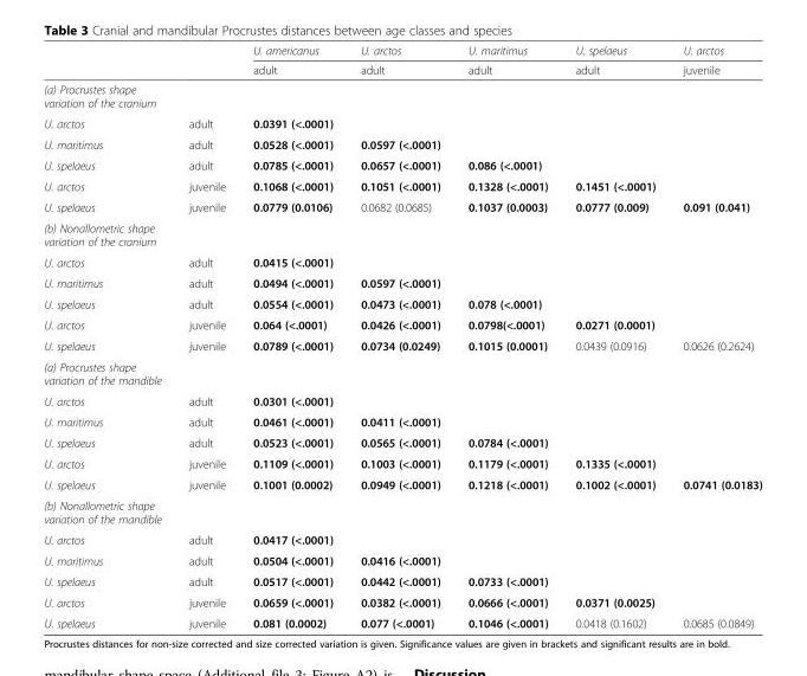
<table><thead><tr><td rowspan="2"></td><td rowspan="2"></td><td rowspan="2">U. americanus adult</td><td rowspan="2">U. arctos adult</td><td rowspan="2">U. maritimus adult</td><td rowspan="2">U. spelaeus adult</td><td rowspan="2">U. arctos juvenile</td></tr><tr></tr></thead><tbody><tr><td colspan="7">(a) Procrustes shape variation of the cranium</td></tr><tr><td>U. arctos</td><td>adult</td><td>0.0391 (&lt;.0001)</td><td></td><td></td><td></td><td></td></tr><tr><td>U. maritimus</td><td>adult</td><td>0.0528 (&lt;.0001)</td><td>0.0597 (&lt;.0001)</td><td></td><td></td><td></td></tr><tr><td>U. spelaeus</td><td>adult</td><td>0.0785 (&lt;.0001)</td><td>0.0657 (&lt;.0001)</td><td>0.086 (&lt;.0001)</td><td></td><td></td></tr><tr><td>U. arctos</td><td>juvenile</td><td>0.1068 (&lt;.0001)</td><td>0.1051 (&lt;.0001)</td><td>0.1328 (&lt;.0001)</td><td>0.1451 (&lt;.0001)</td><td></td></tr><tr><td>U. spelaeus</td><td>juvenile</td><td>0.0779 (0.0106)</td><td>0.0682 (0.0685)</td><td>0.1037 (0.0003)</td><td>0.0777 (0.009)</td><td>0.091 (0.041)</td></tr><tr><td colspan="7">(b) Nonallometric shape variation of the cranium</td></tr><tr><td>U. arctos</td><td>adult</td><td>0.0415 (&lt;.0001)</td><td></td><td></td><td></td><td></td></tr><tr><td>U. maritimus</td><td>adult</td><td>0.0494 (&lt;.0001)</td><td>0.0597 (&lt;.0001)</td><td></td><td></td><td></td></tr><tr><td>U. spelaeus</td><td>adult</td><td>0.0554 (&lt;.0001)</td><td>0.0473 (&lt;.0001)</td><td>0.078 (&lt;.0001)</td><td></td><td></td></tr><tr><td>U. arctos</td><td>juvenile</td><td>0.064 (&lt;.0001)</td><td>0.0426 (&lt;.0001)</td><td>0.0798(&lt;.0001)</td><td>0.0271 (0.0001)</td><td></td></tr><tr><td>U. spelaeus</td><td>juvenile</td><td>0.0789 (&lt;.0001)</td><td>0.0734 (0.0249)</td><td>0.1015 (0.0001)</td><td>0.0439 (0.0916)</td><td>0.0626 (0.2624)</td></tr><tr><td colspan="7">(a) Procrustes shape variation of the mandible</td></tr><tr><td>U. arctos</td><td>adult</td><td>0.0301 (&lt;.0001)</td><td></td><td></td><td></td><td></td></tr><tr><td>U. maritimus</td><td>adult</td><td>0.0461 (&lt;.0001)</td><td>0.0411 (&lt;.0001)</td><td></td><td></td><td></td></tr><tr><td>U. spelaeus</td><td>adult</td><td>0.0523 (&lt;.0001)</td><td>0.0565 (&lt;.0001)</td><td>0.0784 (&lt;.0001)</td><td></td><td></td></tr><tr><td>U. arctos</td><td>juvenile</td><td>0.1109 (&lt;.0001)</td><td>0.1003 (&lt;.0001)</td><td>0.1179 (&lt;.0001)</td><td>0.1335 (&lt;.0001)</td><td></td></tr><tr><td>U. spelaeus</td><td>juvenile</td><td>0.1001 (0.0002)</td><td>0.0949 (&lt;.0001)</td><td>0.1218 (&lt;.0001)</td><td>0.1002 (&lt;.0001)</td><td>0.0741 (0.0183)</td></tr><tr><td colspan="7">(b) Nonallometric shape variation of the mandible</td></tr><tr><td>U. arctos</td><td>adult</td><td>0.0417 (&lt;.0001)</td><td></td><td></td><td></td><td></td></tr><tr><td>U. maritimus</td><td>adult</td><td>0.0504 (&lt;.0001)</td><td>0.0416 (&lt;.0001)</td><td></td><td></td><td></td></tr><tr><td>U. spelaeus</td><td>adult</td><td>0.0517 (&lt;.0001)</td><td>0.0442 (&lt;.0001)</td><td>0.0733 (&lt;.0001)</td><td></td><td></td></tr><tr><td>U. arctos</td><td>juvenile</td><td>0.0659 (&lt;.0001)</td><td>0.0382 (&lt;.0001)</td><td>0.0666 (&lt;.0001)</td><td>0.0371 (0.0025)</td><td></td></tr><tr><td>U. spelaeus</td><td>juvenile</td><td>0.081 (0.0002)</td><td>0.077 (&lt;.0001)</td><td>0.1046 (&lt;.0001)</td><td>0.0418 (0.1602)</td><td>0.0685 (0.0849)</td></tr></tbody></table>